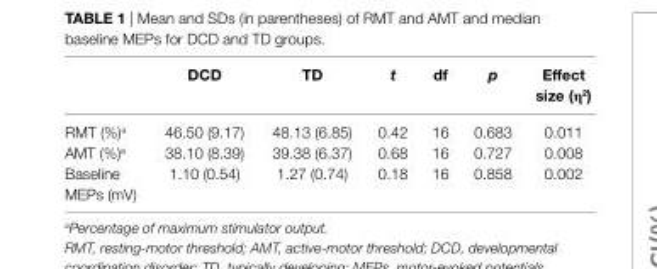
<table><thead><tr><td></td><td>DcD</td><td>TD</td><td>t</td><td>df</td><td>p</td><td>effect size (η<sup>2</sup>)</td></tr></thead><tbody><tr><td>RMT (%)<sup>a</sup></td><td>46.50 (9.17)</td><td>48.13 (6.85)</td><td>0.42</td><td>16</td><td>0.683</td><td>0.011</td></tr><tr><td>AMT (%)<sup>a</sup></td><td>38.10 (8.39)</td><td>39.38 (6.37)</td><td>0.68</td><td>16</td><td>0.727</td><td>0.008</td></tr><tr><td>Baseline MEPs (mV)</td><td>1.10 (0.54)</td><td>1.27 (0.74)</td><td>0.18</td><td>16</td><td>0.858</td><td>0.002</td></tr></tbody></table>